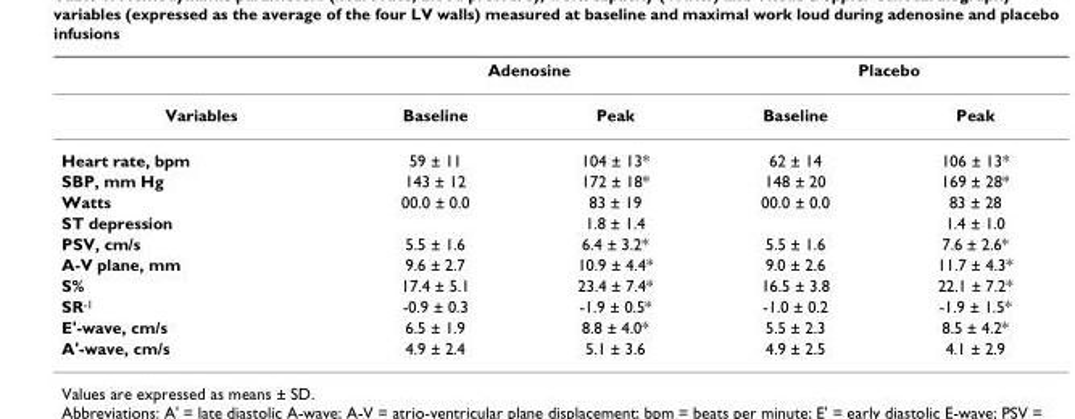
<table><thead><tr><td rowspan="2">Variables</td><td colspan="2">Adenosine</td><td colspan="2">Placebo</td></tr><tr><td>Baseline</td><td>Peak</td><td>Baseline</td><td>Peak</td></tr></thead><tbody><tr><td>Heart rate, bpm</td><td>59 ± 11</td><td>104 ± 13*</td><td>62 ± 14</td><td>106 ± 13*</td></tr><tr><td>SBP, mm Hg</td><td>143 ± 12</td><td>172 ± 18*</td><td>148 ± 20</td><td>169 ± 28*</td></tr><tr><td>Watts</td><td>00.0 ± 0.0</td><td>83 ± 19</td><td>00.0 ± 0.0</td><td>83 ± 28</td></tr><tr><td>ST depression</td><td></td><td>1.8 ± 1.4</td><td></td><td>1.4 ± 1.0</td></tr><tr><td>PSV, cm/s</td><td>5.5 ± 1.6</td><td>6.4 ± 3.2*</td><td>5.5 ± 1.6</td><td>7.6 ± 2.6*</td></tr><tr><td>A-V plane, mm</td><td>9.6 ± 2.7</td><td>10.9 ± 4.4*</td><td>9.0 ± 2.6</td><td>11.7 ± 4.3*</td></tr><tr><td>S%</td><td>17.4 ± 5.1</td><td>23.4 ± 7.4*</td><td>16.5 ± 3.8</td><td>22.1 ± 7.2*</td></tr><tr><td>SR<sup>-1</sup></td><td>-0.9 ± 0.3</td><td>-1.9 ± 0.5*</td><td>-1.0 ± 0.2</td><td>-1.9 ± 1.5*</td></tr><tr><td>E&#x27;-wave, cm/s</td><td>6.5 ± 1.9</td><td>8.8 ± 4.0*</td><td>5.5 ± 2.3</td><td>8.5 ± 4.2*</td></tr><tr><td>A&#x27;-wave, cm/s</td><td>4.9 ± 2.4</td><td>5.1 ± 3.6</td><td>4.9 ± 2.5</td><td>4.1 ± 2.9</td></tr></tbody></table>